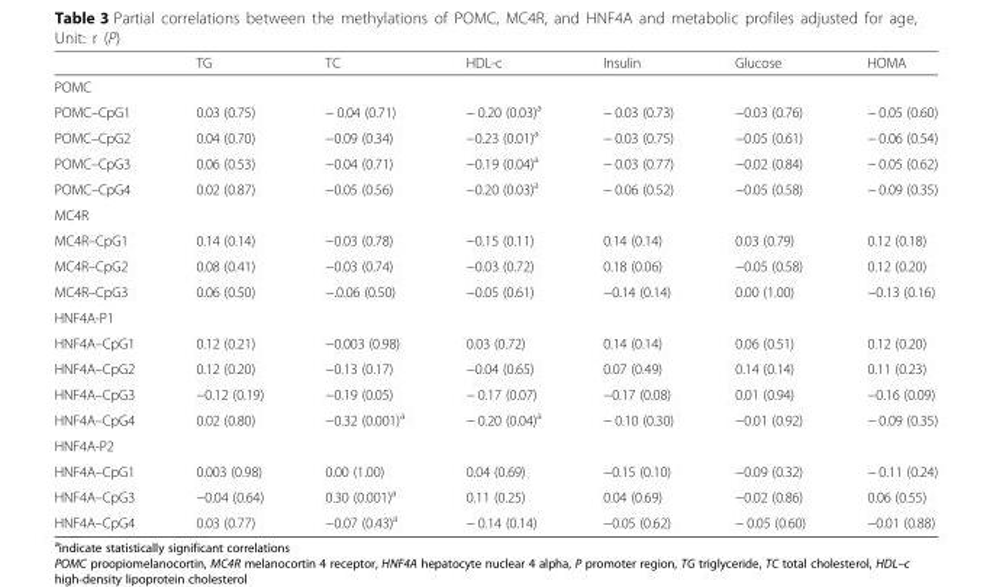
<table><thead><tr><td></td><td>TG</td><td>TC</td><td>HDL-c</td><td>Insulin</td><td>Glucose</td><td>HOMA</td></tr></thead><tbody><tr><td colspan="7">POMC</td></tr><tr><td>POMC–CpG1</td><td>0.03 (0.75)</td><td>− 0.04 (0.71)</td><td>− 0.20 (0.03)<sup>a</sup></td><td>− 0.03 (0.73)</td><td>−0.03 (0.76)</td><td>− 0.05 (0.60)</td></tr><tr><td>POMC–CpG2</td><td>0.04 (0.70)</td><td>−0.09 (0.34)</td><td>−0.23 (0.01)<sup>a</sup></td><td>− 0.03 (0.75)</td><td>−0.05 (0.61)</td><td>− 0.06 (0.54)</td></tr><tr><td>POMC–CpG3</td><td>0.06 (0.53)</td><td>−0.04 (0.71)</td><td>−0.19 (0.04)<sup>a</sup></td><td>− 0.03 (0.77)</td><td>−0.02 (0.84)</td><td>− 0.05 (0.62)</td></tr><tr><td>POMC–CpG4</td><td>0.02 (0.87)</td><td>−0.05 (0.56)</td><td>−0.20 (0.03)<sup>a</sup></td><td>− 0.06 (0.52)</td><td>−0.05 (0.58)</td><td>− 0.09 (0.35)</td></tr><tr><td colspan="7">MC4R</td></tr><tr><td>MC4R–CpG1</td><td>0.14 (0.14)</td><td>−0.03 (0.78)</td><td>−0.15 (0.11)</td><td>0.14 (0.14)</td><td>0.03 (0.79)</td><td>0.12 (0.18)</td></tr><tr><td>MC4R–CpG2</td><td>0.08 (0.41)</td><td>−0.03 (0.74)</td><td>−0.03 (0.72)</td><td>0.18 (0.06)</td><td>−0.05 (0.58)</td><td>0.12 (0.20)</td></tr><tr><td>MC4R–CpG3</td><td>0.06 (0.50)</td><td>−.0.06 (0.50)</td><td>−0.05 (0.61)</td><td>−0.14 (0.14)</td><td>0.00 (1.00)</td><td>−0.13 (0.16)</td></tr><tr><td colspan="7">HNF4A-P1</td></tr><tr><td>HNF4A–CpG1</td><td>0.12 (0.21)</td><td>−0.003 (0.98)</td><td>0.03 (0.72)</td><td>0.14 (0.14)</td><td>0.06 (0.51)</td><td>0.12 (0.20)</td></tr><tr><td>HNF4A–CpG2</td><td>0.12 (0.20)</td><td>−0.13 (0.17)</td><td>−0.04 (0.65)</td><td>0.07 (0.49)</td><td>0.14 (0.14)</td><td>0.11 (0.23)</td></tr><tr><td>HNF4A–CpG3</td><td>−0.12 (0.19)</td><td>−0.19 (0.05)</td><td>− 0.17 (0.07)</td><td>−0.17 (0.08)</td><td>0.01 (0.94)</td><td>−0.16 (0.09)</td></tr><tr><td>HNF4A–CpG4</td><td>0.02 (0.80)</td><td>−0.32 (0.001)<sup>a</sup></td><td>− 0.20 (0.04)<sup>a</sup></td><td>− 0.10 (0.30)</td><td>−0.01 (0.92)</td><td>− 0.09 (0.35)</td></tr><tr><td colspan="7">HNF4A-P2</td></tr><tr><td>HNF4A–CpG1</td><td>0.003 (0.98)</td><td>0.00 (1.00)</td><td>0.04 (0.69)</td><td>−0.15 (0.10)</td><td>−0.09 (0.32)</td><td>− 0.11 (0.24)</td></tr><tr><td>HNF4A–CpG3</td><td>−0.04 (0.64)</td><td>0.30 (0.001)<sup>a</sup></td><td>0.11 (0.25)</td><td>0.04 (0.69)</td><td>−0.02 (0.86)</td><td>0.06 (0.55)</td></tr><tr><td>HNF4A–CpG4</td><td>0.03 (0.77)</td><td>−0.07 (0.43)<sup>a</sup></td><td>− 0.14 (0.14)</td><td>−0.05 (0.62)</td><td>− 0.05 (0.60)</td><td>−0.01 (0.88)</td></tr></tbody></table>